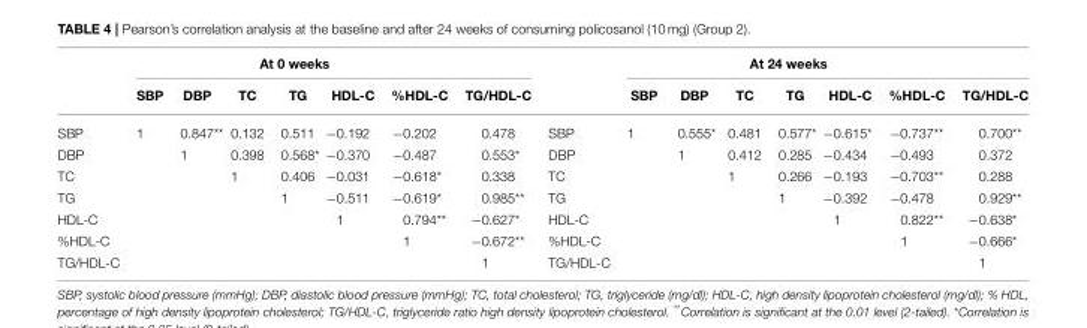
<table><thead><tr><td rowspan="2"></td><td colspan="7">At 0 weeks</td><td rowspan="2"></td><td colspan="7">At 24 weeks</td></tr><tr><td>SBP</td><td>DBP</td><td>TC</td><td>TG</td><td>HDL-C</td><td>%HDL-C</td><td>TG/HDL-C</td><td>SBP</td><td>DBP</td><td>TC</td><td>TG</td><td>HDL-C</td><td>%HDL-C</td><td>TG/HDL-C</td></tr></thead><tbody><tr><td>SBP</td><td>1</td><td>0.847**</td><td>0.132</td><td>0.511</td><td>−0.192</td><td>−0.202</td><td>0.478</td><td>SBP</td><td>1</td><td>0.555*</td><td>0.481</td><td>0.577*</td><td>−0.615*</td><td>−0.737**</td><td>0.700**</td></tr><tr><td>DBP</td><td></td><td>1</td><td>0.398</td><td>0.568*</td><td>−0.370</td><td>−0.487</td><td>0.553*</td><td>DBP</td><td></td><td>1</td><td>0.412</td><td>0.285</td><td>−0.434</td><td>−0.493</td><td>0.372</td></tr><tr><td>TC</td><td></td><td></td><td>1</td><td>0.406</td><td>−0.031</td><td>−0.618*</td><td>0.338</td><td>TC</td><td></td><td></td><td>1</td><td>0.266</td><td>−0.193</td><td>−0.703**</td><td>0.288</td></tr><tr><td>TG</td><td></td><td></td><td></td><td>1</td><td>−0.511</td><td>−0.619*</td><td>0.985**</td><td>TG</td><td></td><td></td><td></td><td>1</td><td>−0.392</td><td>−0.478</td><td>0.929**</td></tr><tr><td>HDL-C</td><td></td><td></td><td></td><td></td><td>1</td><td>0.794**</td><td>−0.627*</td><td>HDL-C</td><td></td><td></td><td></td><td></td><td>1</td><td>0.822**</td><td>−0.638*</td></tr><tr><td>%HDL-C</td><td></td><td></td><td></td><td></td><td></td><td>1</td><td>−0.672**</td><td>%HDL-C</td><td></td><td></td><td></td><td></td><td></td><td>1</td><td>−0.666*</td></tr><tr><td>TG/HDL-C</td><td></td><td></td><td></td><td></td><td></td><td></td><td>1</td><td>TG/HDL-C</td><td></td><td></td><td></td><td></td><td></td><td></td><td>1</td></tr></tbody></table>